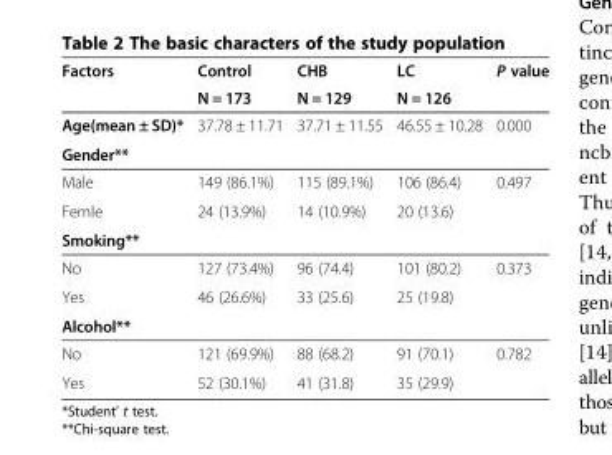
<table><thead><tr><td rowspan="2">Factors</td><td rowspan="2">Control N = 173</td><td rowspan="2">CHB N = 129</td><td rowspan="2">LC N = 126</td><td rowspan="2">P value</td></tr><tr></tr></thead><tbody><tr><td>Age(mean ± SD)*</td><td>37.78 ± 11.71</td><td>37.71 ± 11.55</td><td>46.55 ± 10.28</td><td>0.000</td></tr><tr><td colspan="5">Gender**</td></tr><tr><td>Male</td><td>149 (86.1%)</td><td>115 (89.1%)</td><td>106 (86.4)</td><td>0.497</td></tr><tr><td>Femle</td><td>24 (13.9%)</td><td>14 (10.9%)</td><td>20 (13.6)</td><td></td></tr><tr><td colspan="5">Smoking**</td></tr><tr><td>No</td><td>127 (73.4%)</td><td>96 (74.4)</td><td>101 (80.2)</td><td>0.373</td></tr><tr><td>Yes</td><td>46 (26.6%)</td><td>33 (25.6)</td><td>25 (19.8)</td><td></td></tr><tr><td colspan="5">Alcohol**</td></tr><tr><td>No</td><td>121 (69.9%)</td><td>88 (68.2)</td><td>91 (70.1)</td><td>0.782</td></tr><tr><td>Yes</td><td>52 (30.1%)</td><td>41 (31.8)</td><td>35 (29.9)</td><td></td></tr></tbody></table>